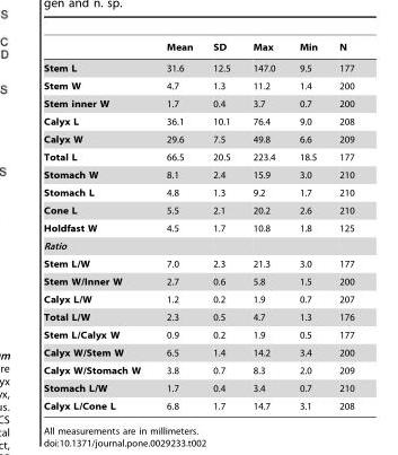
<table><thead><tr><td></td><td>Mean</td><td>SD</td><td>Max</td><td>Min</td><td>N</td></tr></thead><tbody><tr><td>Stem L</td><td>31.6</td><td>12.5</td><td>147.0</td><td>9.5</td><td>177</td></tr><tr><td>Stem W</td><td>4.7</td><td>1.3</td><td>11.2</td><td>1.4</td><td>200</td></tr><tr><td>Stem inner W</td><td>1.7</td><td>0.4</td><td>3.7</td><td>0.7</td><td>200</td></tr><tr><td>Calyx L</td><td>36.1</td><td>10.1</td><td>76.4</td><td>9.0</td><td>208</td></tr><tr><td>Calyx W</td><td>29.6</td><td>7.5</td><td>49.8</td><td>6.6</td><td>209</td></tr><tr><td>Total L</td><td>66.5</td><td>20.5</td><td>223.4</td><td>18.5</td><td>177</td></tr><tr><td>Stomach W</td><td>8.1</td><td>2.4</td><td>15.9</td><td>3.0</td><td>210</td></tr><tr><td>Stomach L</td><td>4.8</td><td>1.3</td><td>9.2</td><td>1.7</td><td>210</td></tr><tr><td>Cone L</td><td>5.5</td><td>2.1</td><td>20.2</td><td>2.6</td><td>210</td></tr><tr><td>Holdfast W</td><td>4.5</td><td>1.7</td><td>10.8</td><td>1.8</td><td>125</td></tr><tr><td colspan="6">Ratio</td></tr><tr><td>Stem L/W</td><td>7.0</td><td>2.3</td><td>21.3</td><td>3.0</td><td>177</td></tr><tr><td>Stem W/Inner W</td><td>2.7</td><td>0.6</td><td>5.8</td><td>1.5</td><td>200</td></tr><tr><td>Calyx L/W</td><td>1.2</td><td>0.2</td><td>1.9</td><td>0.7</td><td>207</td></tr><tr><td>Total L/W</td><td>2.3</td><td>0.5</td><td>4.7</td><td>1.3</td><td>176</td></tr><tr><td>Stem L/Calyx W</td><td>0.9</td><td>0.2</td><td>1.9</td><td>0.5</td><td>177</td></tr><tr><td>Calyx W/Stem W</td><td>6.5</td><td>1.4</td><td>14.2</td><td>3.4</td><td>200</td></tr><tr><td>Calyx W/Stomach W</td><td>3.8</td><td>0.7</td><td>8.3</td><td>2.0</td><td>209</td></tr><tr><td>Stomach L/W</td><td>1.7</td><td>0.4</td><td>3.4</td><td>0.7</td><td>210</td></tr><tr><td>Calyx L/Cone L</td><td>6.8</td><td>1.7</td><td>14.7</td><td>3.1</td><td>208</td></tr></tbody></table>